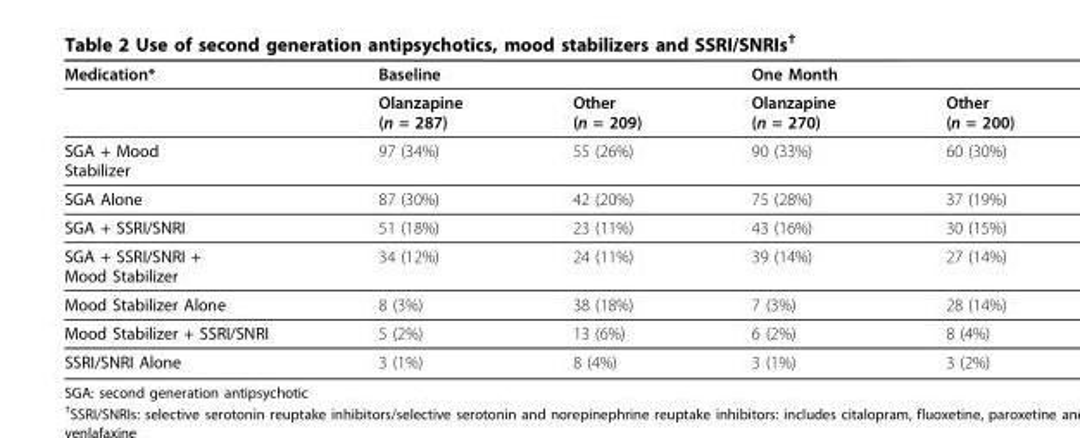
<table><thead><tr><td rowspan="2">Medication*</td><td colspan="2">Baseline</td><td colspan="2">One Month</td></tr><tr><td>Olanzapine (n = 287)</td><td>Other (n = 209)</td><td>Olanzapine (n = 270)</td><td>Other (n = 200)</td></tr></thead><tbody><tr><td>SGA + Mood Stabilizer</td><td>97 (34%)</td><td>55 (26%)</td><td>90 (33%)</td><td>60 (30%)</td></tr><tr><td>SGA Alone</td><td>87 (30%)</td><td>42 (20%)</td><td>75 (28%)</td><td>37 (19%)</td></tr><tr><td>SGA + SSRI/SNRI</td><td>51 (18%)</td><td>23 (11%)</td><td>43 (16%)</td><td>30 (15%)</td></tr><tr><td>SGA + SSRI/SNRI + Mood Stabilizer</td><td>34 (12%)</td><td>24 (11%)</td><td>39 (14%)</td><td>27 (14%)</td></tr><tr><td>Mood Stabilizer Alone</td><td>8 (3%)</td><td>38 (18%)</td><td>7 (3%)</td><td>28 (14%)</td></tr><tr><td>Mood Stabilizer + SSRI/SNRI</td><td>5 (2%)</td><td>13 (6%)</td><td>6 (2%)</td><td>8 (4%)</td></tr><tr><td>SSRI/SNRI Alone</td><td>3 (1%)</td><td>8 (4%)</td><td>3 (1%)</td><td>3 (2%)</td></tr></tbody></table>